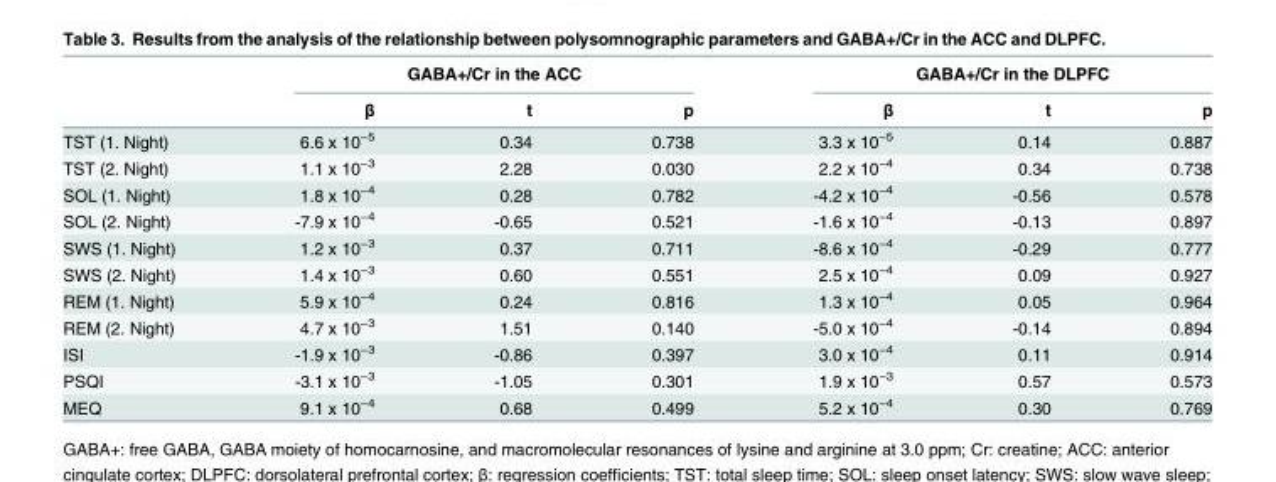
<table><thead><tr><td rowspan="2"></td><td colspan="3">GABA+/Cr in the ACC</td><td colspan="3">GABA+/Cr in the DLPFC</td></tr><tr><td>β</td><td>t</td><td>p</td><td>β</td><td>t</td><td>p</td></tr></thead><tbody><tr><td>TST (1. Night)</td><td>6.6 x 10<sup>−5</sup></td><td>0.34</td><td>0.738</td><td>3.3 x 10<sup>−5</sup></td><td>0.14</td><td>0.887</td></tr><tr><td>TST (2. Night)</td><td>1.1 x 10<sup>−3</sup></td><td>2.28</td><td>0.030</td><td>2.2 x 10<sup>−4</sup></td><td>0.34</td><td>0.738</td></tr><tr><td>SOL (1. Night)</td><td>1.8 x 10<sup>−4</sup></td><td>0.28</td><td>0.782</td><td>-4.2 x 10<sup>−4</sup></td><td>-0.56</td><td>0.578</td></tr><tr><td>SOL (2. Night)</td><td>-7.9 x 10<sup>−4</sup></td><td>-0.65</td><td>0.521</td><td>-1.6 x 10<sup>−4</sup></td><td>-0.13</td><td>0.897</td></tr><tr><td>SWS (1. Night)</td><td>1.2 x 10<sup>−3</sup></td><td>0.37</td><td>0.711</td><td>-8.6 x 10<sup>−4</sup></td><td>-0.29</td><td>0.777</td></tr><tr><td>SWS (2. Night)</td><td>1.4 x 10<sup>−3</sup></td><td>0.60</td><td>0.551</td><td>2.5 x 10<sup>−4</sup></td><td>0.09</td><td>0.927</td></tr><tr><td>REM (1. Night)</td><td>5.9 x 10<sup>−4</sup></td><td>0.24</td><td>0.816</td><td>1.3 x 10<sup>−4</sup></td><td>0.05</td><td>0.964</td></tr><tr><td>REM (2. Night)</td><td>4.7 x 10<sup>−3</sup></td><td>1.51</td><td>0.140</td><td>-5.0 x 10<sup>−4</sup></td><td>-0.14</td><td>0.894</td></tr><tr><td>ISI</td><td>-1.9 x 10<sup>−3</sup></td><td>-0.86</td><td>0.397</td><td>3.0 x 10<sup>−4</sup></td><td>0.11</td><td>0.914</td></tr><tr><td>PSQI</td><td>-3.1 x 10<sup>−3</sup></td><td>-1.05</td><td>0.301</td><td>1.9 x 10<sup>−3</sup></td><td>0.57</td><td>0.573</td></tr><tr><td>MEQ</td><td>9.1 x 10<sup>−4</sup></td><td>0.68</td><td>0.499</td><td>5.2 x 10<sup>−4</sup></td><td>0.30</td><td>0.769</td></tr></tbody></table>